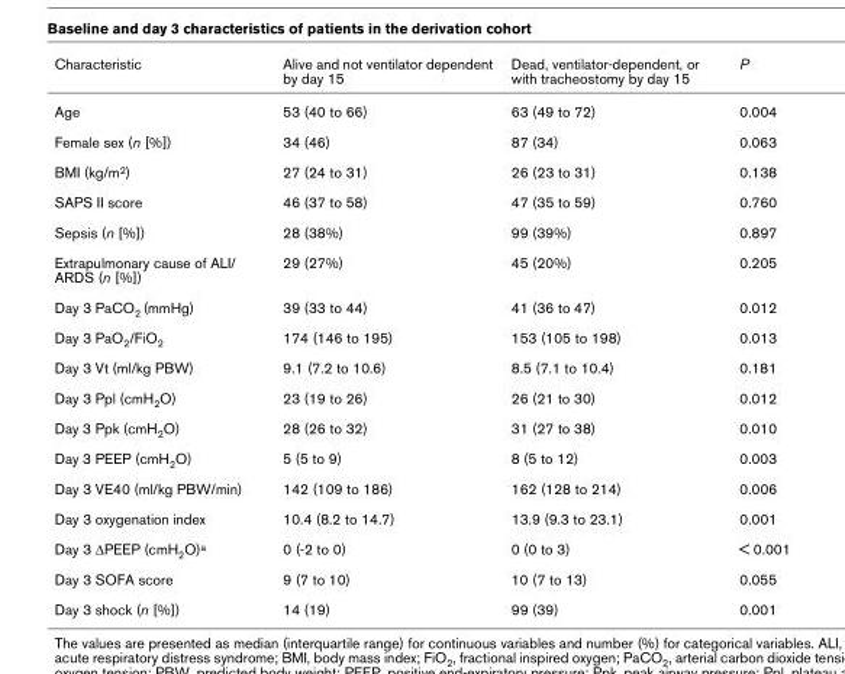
<table><thead><tr><td>Characteristic</td><td>Alive and not ventilator dependent by day 15</td><td>Dead, ventilator-dependent, or with tracheostomy by day 15</td><td>P</td></tr></thead><tbody><tr><td>Age</td><td>53 (40 to 66)</td><td>63 (49 to 72)</td><td>0.004</td></tr><tr><td>Female sex (n [%])</td><td>34 (46)</td><td>87 (34)</td><td>0.063</td></tr><tr><td>BMI (kg/m<sup>2</sup>)</td><td>27 (24 to 31)</td><td>26 (23 to 31)</td><td>0.138</td></tr><tr><td>SAPS II score</td><td>46 (37 to 58)</td><td>47 (35 to 59)</td><td>0.760</td></tr><tr><td>Sepsis (n [%])</td><td>28 (38%)</td><td>99 (39%)</td><td>0.897</td></tr><tr><td>Extrapulmonary cause of ALI/ ARDS (n [%])</td><td>29 (27%)</td><td>45 (20%)</td><td>0.205</td></tr><tr><td>Day 3 PaCO<sub>2</sub> (mmHg)</td><td>39 (33 to 44)</td><td>41 (36 to 47)</td><td>0.012</td></tr><tr><td>Day 3 PaO<sub>2</sub>/FiO<sub>2</sub></td><td>174 (146 to 195)</td><td>153 (105 to 198)</td><td>0.013</td></tr><tr><td>Day 3 Vt (ml/kg PBW)</td><td>9.1 (7.2 to 10.6)</td><td>8.5 (7.1 to 10.4)</td><td>0.181</td></tr><tr><td>Day 3 Ppl (cmH<sub>2</sub>O)</td><td>23 (19 to 26)</td><td>26 (21 to 30)</td><td>0.012</td></tr><tr><td>Day 3 Ppk (cmH<sub>2</sub>O)</td><td>28 (26 to 32)</td><td>31 (27 to 38)</td><td>0.010</td></tr><tr><td>Day 3 PEEP (cmH<sub>2</sub>O)</td><td>5 (5 to 9)</td><td>8 (5 to 12)</td><td>0.003</td></tr><tr><td>Day 3 VE40 (ml/kg PBW/min)</td><td>142 (109 to 186)</td><td>162 (128 to 214)</td><td>0.006</td></tr><tr><td>Day 3 oxygenation index</td><td>10.4 (8.2 to 14.7)</td><td>13.9 (9.3 to 23.1)</td><td>0.001</td></tr><tr><td>Day 3 ΔPEEP (cmH<sub>2</sub>O)<sup>a</sup></td><td>0 (-2 to 0)</td><td>0 (0 to 3)</td><td>&lt; 0.001</td></tr><tr><td>Day 3 SOFA score</td><td>9 (7 to 10)</td><td>10 (7 to 13)</td><td>0.055</td></tr><tr><td>Day 3 shock (n [%])</td><td>14 (19)</td><td>99 (39)</td><td>0.001</td></tr></tbody></table>